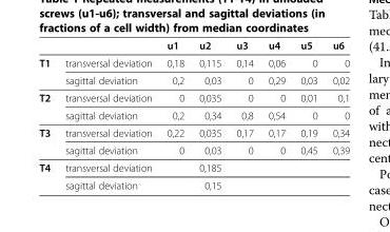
<table><thead><tr><td></td><td></td><td>u1</td><td>u2</td><td>u3</td><td>u4</td><td>u5</td><td>u6</td></tr></thead><tbody><tr><td rowspan="2">T1</td><td>transversal deviation</td><td>0,18</td><td>0,115</td><td>0,14</td><td>0,06</td><td>0</td><td>0</td></tr><tr><td>sagittal deviation</td><td>0,2</td><td>0,03</td><td>0</td><td>0,29</td><td>0,03</td><td>0,02</td></tr><tr><td rowspan="2">T2</td><td>transversal deviation</td><td>0</td><td>0,035</td><td>0</td><td>0</td><td>0,01</td><td>0,1</td></tr><tr><td>sagittal deviation</td><td>0,2</td><td>0,34</td><td>0,8</td><td>0,54</td><td>0</td><td>0</td></tr><tr><td rowspan="2">T3</td><td>transversal deviation</td><td>0,22</td><td>0,035</td><td>0,17</td><td>0,17</td><td>0,19</td><td>0,34</td></tr><tr><td>sagittal deviation</td><td>0</td><td>0,03</td><td>0</td><td>0</td><td>0,45</td><td>0,39</td></tr><tr><td rowspan="2">T4</td><td>transversal deviation</td><td></td><td>0,185</td><td></td><td></td><td></td><td></td></tr><tr><td>sagittal deviation</td><td></td><td>0,15</td><td></td><td></td><td></td><td></td></tr></tbody></table>